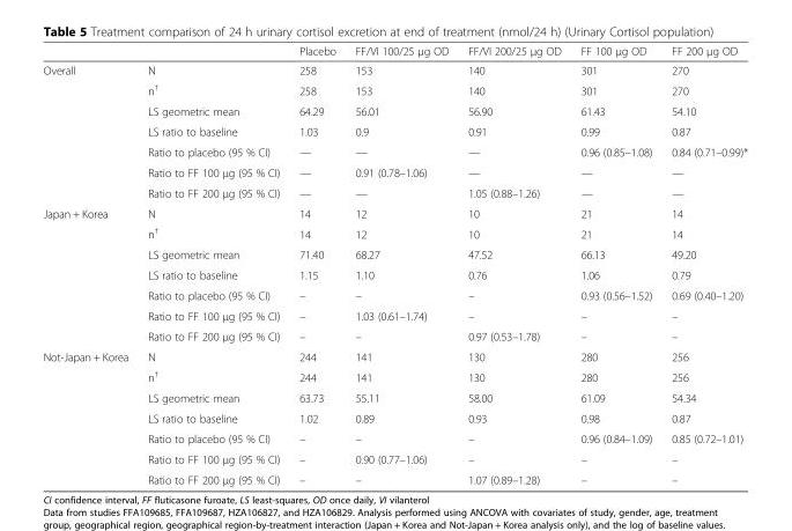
<table><thead><tr><td></td><td></td><td>Placebo</td><td>FF/VI 100/25 μg OD</td><td>FF/VI 200/25 μg OD</td><td>FF 100 μg OD</td><td>FF 200 μg OD</td></tr></thead><tbody><tr><td rowspan="7">Overall</td><td>N</td><td>258</td><td>153</td><td>140</td><td>301</td><td>270</td></tr><tr><td>n<sup>†</sup></td><td>258</td><td>153</td><td>140</td><td>301</td><td>270</td></tr><tr><td>LS geometric mean</td><td>64.29</td><td>56.01</td><td>56.90</td><td>61.43</td><td>54.10</td></tr><tr><td>LS ratio to baseline</td><td>1.03</td><td>0.9</td><td>0.91</td><td>0.99</td><td>0.87</td></tr><tr><td>Ratio to placebo (95 % CI)</td><td>—</td><td>—</td><td>—</td><td>0.96 (0.85–1.08)</td><td>0.84 (0.71–0.99)*</td></tr><tr><td>Ratio to FF 100 μg (95 % CI)</td><td>—</td><td>0.91 (0.78–1.06)</td><td>—</td><td>—</td><td>—</td></tr><tr><td>Ratio to FF 200 μg (95 % CI)</td><td>—</td><td>—</td><td>1.05 (0.88–1.26)</td><td>—</td><td>—</td></tr><tr><td rowspan="7">Japan + Korea</td><td>N</td><td>14</td><td>12</td><td>10</td><td>21</td><td>14</td></tr><tr><td>n<sup>†</sup></td><td>14</td><td>12</td><td>10</td><td>21</td><td>14</td></tr><tr><td>LS geometric mean</td><td>71.40</td><td>68.27</td><td>47.52</td><td>66.13</td><td>49.20</td></tr><tr><td>LS ratio to baseline</td><td>1.15</td><td>1.10</td><td>0.76</td><td>1.06</td><td>0.79</td></tr><tr><td>Ratio to placebo (95 % CI)</td><td>–</td><td>–</td><td>–</td><td>0.93 (0.56–1.52)</td><td>0.69 (0.40–1.20)</td></tr><tr><td>Ratio to FF 100 μg (95 % CI)</td><td>–</td><td>1.03 (0.61–1.74)</td><td>–</td><td>–</td><td>–</td></tr><tr><td>Ratio to FF 200 μg (95 % CI)</td><td>–</td><td>–</td><td>0.97 (0.53–1.78)</td><td>–</td><td>–</td></tr><tr><td rowspan="7">Not-Japan + Korea</td><td>N</td><td>244</td><td>141</td><td>130</td><td>280</td><td>256</td></tr><tr><td>n<sup>†</sup></td><td>244</td><td>141</td><td>130</td><td>280</td><td>256</td></tr><tr><td>LS geometric mean</td><td>63.73</td><td>55.11</td><td>58.00</td><td>61.09</td><td>54.34</td></tr><tr><td>LS ratio to baseline</td><td>1.02</td><td>0.89</td><td>0.93</td><td>0.98</td><td>0.87</td></tr><tr><td>Ratio to placebo (95 % CI)</td><td>–</td><td>–</td><td>–</td><td>0.96 (0.84–1.09)</td><td>0.85 (0.72–1.01)</td></tr><tr><td>Ratio to FF 100 μg (95 % CI)</td><td>–</td><td>0.90 (0.77–1.06)</td><td>–</td><td>–</td><td>–</td></tr><tr><td>Ratio to FF 200 μg (95 % CI)</td><td>–</td><td>–</td><td>1.07 (0.89–1.28)</td><td>–</td><td>–</td></tr></tbody></table>